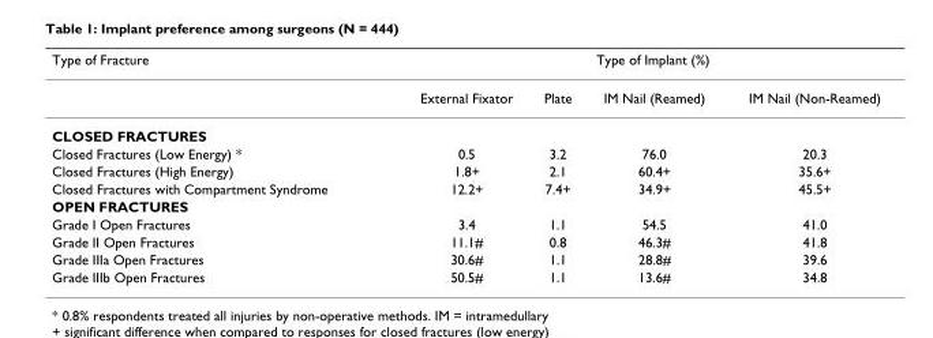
<table><thead><tr><td rowspan="2">Type of Fracture</td><td colspan="4">Type of Implant (%)</td></tr><tr><td>External Fixator</td><td>Plate</td><td>IM Nail (Reamed)</td><td>IM Nail (Non-Reamed)</td></tr></thead><tbody><tr><td colspan="5">CLOSED FRACTURES</td></tr><tr><td>Closed Fractures (Low Energy) *</td><td>0.5</td><td>3.2</td><td>76.0</td><td>20.3</td></tr><tr><td>Closed Fractures (High Energy)</td><td>1.8+</td><td>2.1</td><td>60.4+</td><td>35.6+</td></tr><tr><td>Closed Fractures with Compartment Syndrome</td><td>12.2+</td><td>7.4+</td><td>34.9+</td><td>45.5+</td></tr><tr><td colspan="5">OPEN FRACTURES</td></tr><tr><td>Grade I Open Fractures</td><td>3.4</td><td>1.1</td><td>54.5</td><td>41.0</td></tr><tr><td>Grade II Open Fractures</td><td>11.1#</td><td>0.8</td><td>46.3#</td><td>41.8</td></tr><tr><td>Grade IIIa Open Fractures</td><td>30.6#</td><td>1.1</td><td>28.8#</td><td>39.6</td></tr><tr><td>Grade IIIb Open Fractures</td><td>50.5#</td><td>1.1</td><td>13.6#</td><td>34.8</td></tr></tbody></table>